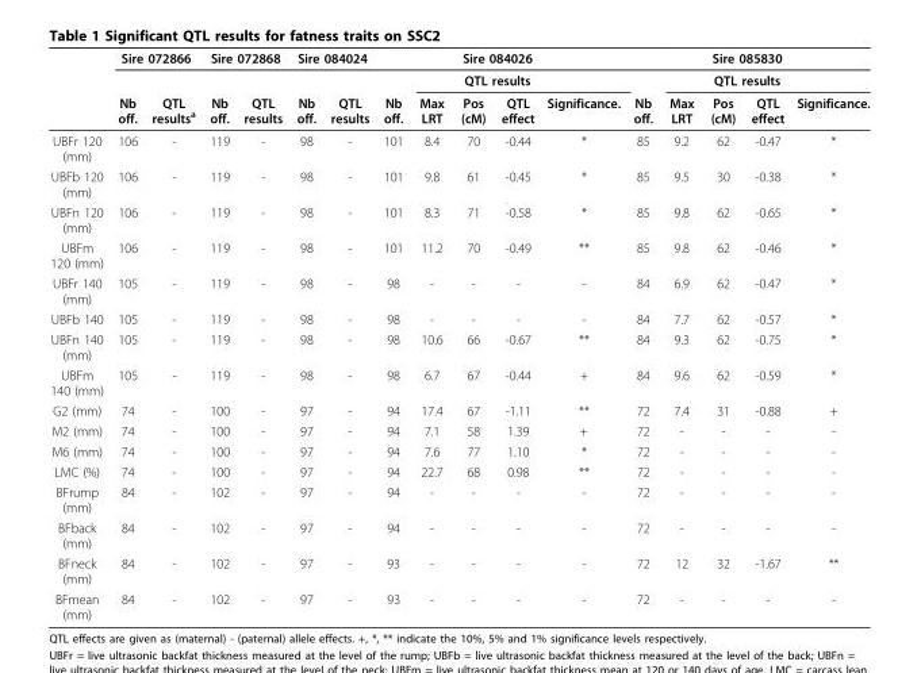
<table><thead><tr><td rowspan="3"></td><td colspan="2">Sire 072866</td><td colspan="2">Sire 072868</td><td colspan="2">Sire 084024</td><td rowspan="3">Nb off.</td><td rowspan="3">Max LRT</td><td rowspan="2" colspan="2">Sire 084026 QTL results</td><td rowspan="3">Significance.</td><td rowspan="3">Nb off.</td><td rowspan="3">Max LRT</td><td rowspan="2" colspan="2">Sire 085830 QTL results</td><td rowspan="3">Significance.</td></tr><tr><td rowspan="2">Nb off.</td><td rowspan="2">QTL results<sup>a</sup></td><td rowspan="2">Nb off.</td><td rowspan="2">QTL results</td><td rowspan="2">Nb off.</td><td rowspan="2">QTL results</td></tr><tr><td>Pos (cM)</td><td>QTL effect</td><td>Pos (cM)</td><td>QTL effect</td></tr></thead><tbody><tr><td>UBFr 120 (mm)</td><td>106</td><td>-</td><td>119</td><td>-</td><td>98</td><td>-</td><td>101</td><td>8.4</td><td>70</td><td>-0.44</td><td>*</td><td>85</td><td>9.2</td><td>62</td><td>-0.47</td><td>*</td></tr><tr><td>UBFb 120 (mm)</td><td>106</td><td>-</td><td>119</td><td>-</td><td>98</td><td>-</td><td>101</td><td>9.8</td><td>61</td><td>-0.45</td><td>*</td><td>85</td><td>9.5</td><td>30</td><td>-0.38</td><td>*</td></tr><tr><td>UBFn 120 (mm)</td><td>106</td><td>-</td><td>119</td><td>-</td><td>98</td><td>-</td><td>101</td><td>8.3</td><td>71</td><td>-0.58</td><td>*</td><td>85</td><td>9.8</td><td>62</td><td>-0.65</td><td>*</td></tr><tr><td>UBFm 120 (mm)</td><td>106</td><td>-</td><td>119</td><td>-</td><td>98</td><td>-</td><td>101</td><td>11.2</td><td>70</td><td>-0.49</td><td>**</td><td>85</td><td>9.8</td><td>62</td><td>-0.46</td><td>*</td></tr><tr><td>UBFr 140 (mm)</td><td>105</td><td>-</td><td>119</td><td>-</td><td>98</td><td>-</td><td>98</td><td>-</td><td>-</td><td>-</td><td>-</td><td>84</td><td>6.9</td><td>62</td><td>-0.47</td><td>*</td></tr><tr><td>UBFb 140</td><td>105</td><td>-</td><td>119</td><td>-</td><td>98</td><td>-</td><td>98</td><td>-</td><td>-</td><td>-</td><td>-</td><td>84</td><td>7.7</td><td>62</td><td>-0.57</td><td>*</td></tr><tr><td>UBFn 140 (mm)</td><td>105</td><td>-</td><td>119</td><td>-</td><td>98</td><td>-</td><td>98</td><td>10.6</td><td>66</td><td>-0.67</td><td>**</td><td>84</td><td>9.3</td><td>62</td><td>-0.75</td><td>*</td></tr><tr><td>UBFm 140 (mm)</td><td>105</td><td>-</td><td>119</td><td>-</td><td>98</td><td>-</td><td>98</td><td>6.7</td><td>67</td><td>-0.44</td><td>+</td><td>84</td><td>9.6</td><td>62</td><td>-0.59</td><td>*</td></tr><tr><td>G2 (mm)</td><td>74</td><td>-</td><td>100</td><td>-</td><td>97</td><td>-</td><td>94</td><td>17.4</td><td>67</td><td>-1.11</td><td>**</td><td>72</td><td>7.4</td><td>31</td><td>-0.88</td><td>+</td></tr><tr><td>M2 (mm)</td><td>74</td><td>-</td><td>100</td><td>-</td><td>97</td><td>-</td><td>94</td><td>7.1</td><td>58</td><td>1.39</td><td>+</td><td>72</td><td>-</td><td>-</td><td>-</td><td>-</td></tr><tr><td>M6 (mm)</td><td>74</td><td>-</td><td>100</td><td>-</td><td>97</td><td>-</td><td>94</td><td>7.6</td><td>77</td><td>1.10</td><td>*</td><td>72</td><td>-</td><td>-</td><td>-</td><td>-</td></tr><tr><td>LMC (%)</td><td>74</td><td>-</td><td>100</td><td>-</td><td>97</td><td>-</td><td>94</td><td>22.7</td><td>68</td><td>0.98</td><td>**</td><td>72</td><td>-</td><td>-</td><td>-</td><td>-</td></tr><tr><td>BFrump (mm)</td><td>84</td><td>-</td><td>102</td><td>-</td><td>97</td><td>-</td><td>94</td><td>-</td><td>-</td><td>-</td><td>-</td><td>72</td><td>-</td><td>-</td><td>-</td><td>-</td></tr><tr><td>BFback (mm)</td><td>84</td><td>-</td><td>102</td><td>-</td><td>97</td><td>-</td><td>94</td><td>-</td><td>-</td><td>-</td><td>-</td><td>72</td><td>-</td><td>-</td><td>-</td><td>-</td></tr><tr><td>BFneck (mm)</td><td>84</td><td>-</td><td>102</td><td>-</td><td>97</td><td>-</td><td>93</td><td>-</td><td>-</td><td>-</td><td>-</td><td>72</td><td>12</td><td>32</td><td>-1.67</td><td>**</td></tr><tr><td>BFmean (mm)</td><td>84</td><td>-</td><td>102</td><td>-</td><td>97</td><td>-</td><td>93</td><td>-</td><td>-</td><td>-</td><td>-</td><td>72</td><td>-</td><td>-</td><td>-</td><td>-</td></tr></tbody></table>